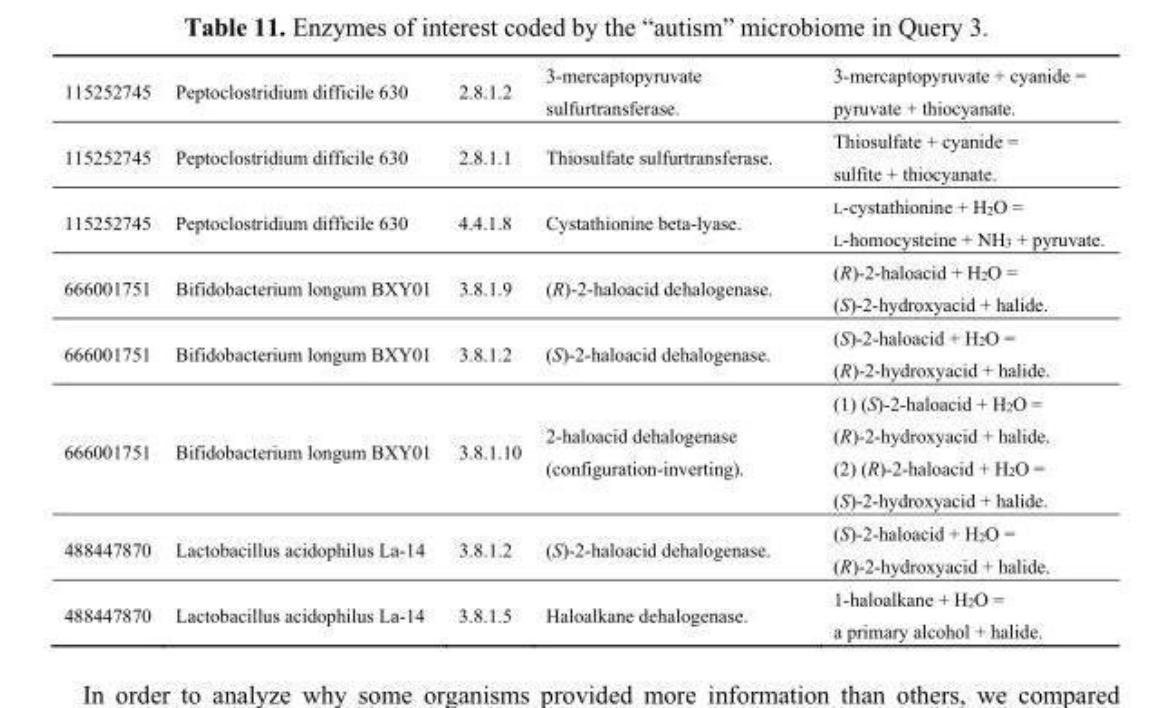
<table><tbody><tr><td>115252745</td><td>Peptoclostridium difficile 630</td><td>2.8.1.2</td><td>3-mercaptopyruvate sulfurtransferase.</td><td>3-mercaptopyruvate + cyanide = pyruvate + thiocyanate.</td></tr><tr><td>115252745</td><td>Peptoclostridium difficile 630</td><td>2.8.1.1</td><td>Thiosulfate sulfurtransferase.</td><td>Thiosulfate + cyanide = sulfite + thiocyanate.</td></tr><tr><td>115252745</td><td>Peptoclostridium difficile 630</td><td>4.4.1.8</td><td>Cystathionine beta-lyase.</td><td>L-cystathionine + H<sub>2</sub>O = L-homocysteine + NH<sub>3</sub> + pyruvate.</td></tr><tr><td>666001751</td><td>Bifidobacterium longum BXY01</td><td>3.8.1.9</td><td>(R)-2-haloacid dehalogenase.</td><td>(R)-2-haloacid + H<sub>2</sub>O = (S)-2-hydroxyacid + halide.</td></tr><tr><td>666001751</td><td>Bifidobacterium longum BXY01</td><td>3.8.1.2</td><td>(S)-2-haloacid dehalogenase.</td><td>(S)-2-haloacid + H<sub>2</sub>O = (R)-2-hydroxyacid + halide.</td></tr><tr><td>666001751</td><td>Bifidobacterium longum BXY01</td><td>3.8.1.10</td><td>2-haloacid dehalogenase (configuration-inverting).</td><td>(1) (S)-2-haloacid + H<sub>2</sub>O = (R)-2-hydroxyacid + halide. (2) (R)-2-haloacid + H<sub>2</sub>O = (S)-2-hydroxyacid + halide.</td></tr><tr><td>488447870</td><td>Lactobacillus acidophilus La-14</td><td>3.8.1.2</td><td>(S)-2-haloacid dehalogenase.</td><td>(S)-2-haloacid + H<sub>2</sub>O = (R)-2-hydroxyacid + halide.</td></tr><tr><td>488447870</td><td>Lactobacillus acidophilus La-14</td><td>3.8.1.5</td><td>Haloalkane dehalogenase.</td><td>1-haloalkane + H<sub>2</sub>O = a primary alcohol + halide.</td></tr></tbody></table>